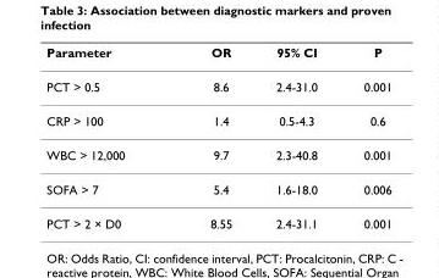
<table><thead><tr><td>Parameter</td><td>OR</td><td>95% CI</td><td>P</td></tr></thead><tbody><tr><td>PCT &gt; 0.5</td><td>8.6</td><td>2.4-31.0</td><td>0.001</td></tr><tr><td>CRP &gt; 100</td><td>1.4</td><td>0.5-4.3</td><td>0.6</td></tr><tr><td>WBC &gt; 12,000</td><td>9.7</td><td>2.3-40.8</td><td>0.001</td></tr><tr><td>SOFA &gt; 7</td><td>5.4</td><td>1.6-18.0</td><td>0.006</td></tr><tr><td>PCT &gt; 2 × D0</td><td>8.55</td><td>2.4-31.1</td><td>0.001</td></tr></tbody></table>